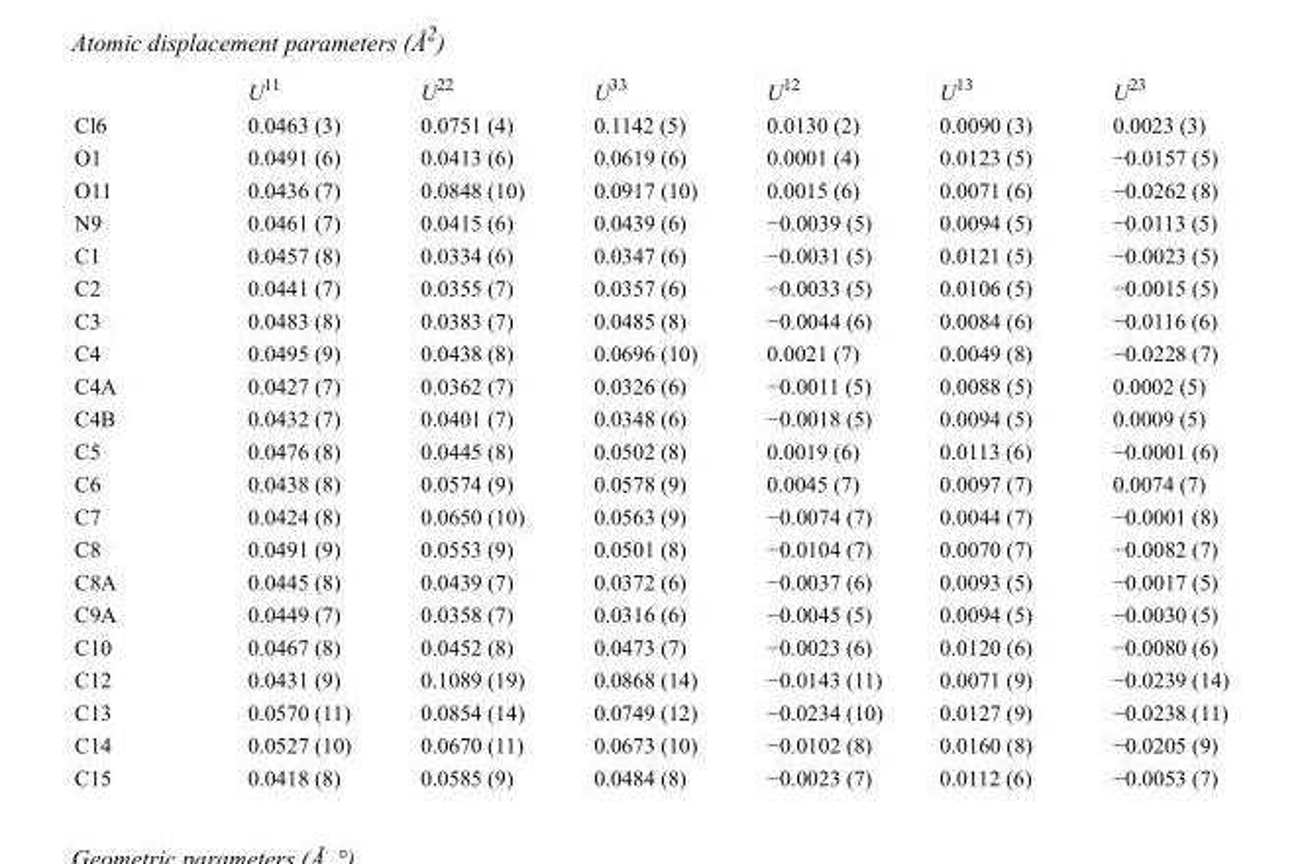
<table><thead><tr><td></td><td>U<sup>11</sup></td><td>U<sup>22</sup></td><td>U<sup>33</sup></td><td>U<sup>12</sup></td><td>U<sup>13</sup></td><td>U<sup>23</sup></td></tr></thead><tbody><tr><td>Cl6</td><td>0.0463 (3)</td><td>0.0751 (4)</td><td>0.1142 (5)</td><td>0.0130 (2)</td><td>0.0090 (3)</td><td>0.0023 (3)</td></tr><tr><td>O1</td><td>0.0491 (6)</td><td>0.0413 (6)</td><td>0.0619 (6)</td><td>0.0001 (4)</td><td>0.0123 (5)</td><td>−0.0157 (5)</td></tr><tr><td>O11</td><td>0.0436 (7)</td><td>0.0848 (10)</td><td>0.0917 (10)</td><td>0.0015 (6)</td><td>0.0071 (6)</td><td>−0.0262 (8)</td></tr><tr><td>N9</td><td>0.0461 (7)</td><td>0.0415 (6)</td><td>0.0439 (6)</td><td>−0.0039 (5)</td><td>0.0094 (5)</td><td>−0.0113 (5)</td></tr><tr><td>C1</td><td>0.0457 (8)</td><td>0.0334 (6)</td><td>0.0347 (6)</td><td>−0.0031 (5)</td><td>0.0121 (5)</td><td>−0.0023 (5)</td></tr><tr><td>C2</td><td>0.0441 (7)</td><td>0.0355 (7)</td><td>0.0357 (6)</td><td>−0.0033 (5)</td><td>0.0106 (5)</td><td>−0.0015 (5)</td></tr><tr><td>C3</td><td>0.0483 (8)</td><td>0.0383 (7)</td><td>0.0485 (8)</td><td>−0.0044 (6)</td><td>0.0084 (6)</td><td>−0.0116 (6)</td></tr><tr><td>C4</td><td>0.0495 (9)</td><td>0.0438 (8)</td><td>0.0696 (10)</td><td>0.0021 (7)</td><td>0.0049 (8)</td><td>−0.0228 (7)</td></tr><tr><td>C4A</td><td>0.0427 (7)</td><td>0.0362 (7)</td><td>0.0326 (6)</td><td>−0.0011 (5)</td><td>0.0088 (5)</td><td>0.0002 (5)</td></tr><tr><td>C4B</td><td>0.0432 (7)</td><td>0.0401 (7)</td><td>0.0348 (6)</td><td>−0.0018 (5)</td><td>0.0094 (5)</td><td>0.0009 (5)</td></tr><tr><td>C5</td><td>0.0476 (8)</td><td>0.0445 (8)</td><td>0.0502 (8)</td><td>0.0019 (6)</td><td>0.0113 (6)</td><td>−0.0001 (6)</td></tr><tr><td>C6</td><td>0.0438 (8)</td><td>0.0574 (9)</td><td>0.0578 (9)</td><td>0.0045 (7)</td><td>0.0097 (7)</td><td>0.0074 (7)</td></tr><tr><td>C7</td><td>0.0424 (8)</td><td>0.0650 (10)</td><td>0.0563 (9)</td><td>−0.0074 (7)</td><td>0.0044 (7)</td><td>−0.0001 (8)</td></tr><tr><td>C8</td><td>0.0491 (9)</td><td>0.0553 (9)</td><td>0.0501 (8)</td><td>−0.0104 (7)</td><td>0.0070 (7)</td><td>−0.0082 (7)</td></tr><tr><td>C8A</td><td>0.0445 (8)</td><td>0.0439 (7)</td><td>0.0372 (6)</td><td>−0.0037 (6)</td><td>0.0093 (5)</td><td>−0.0017 (5)</td></tr><tr><td>C9A</td><td>0.0449 (7)</td><td>0.0358 (7)</td><td>0.0316 (6)</td><td>−0.0045 (5)</td><td>0.0094 (5)</td><td>−0.0030 (5)</td></tr><tr><td>C10</td><td>0.0467 (8)</td><td>0.0452 (8)</td><td>0.0473 (7)</td><td>−0.0023 (6)</td><td>0.0120 (6)</td><td>−0.0080 (6)</td></tr><tr><td>C12</td><td>0.0431 (9)</td><td>0.1089 (19)</td><td>0.0868 (14)</td><td>−0.0143 (11)</td><td>0.0071 (9)</td><td>−0.0239 (14)</td></tr><tr><td>C13</td><td>0.0570 (11)</td><td>0.0854 (14)</td><td>0.0749 (12)</td><td>−0.0234 (10)</td><td>0.0127 (9)</td><td>−0.0238 (11)</td></tr><tr><td>C14</td><td>0.0527 (10)</td><td>0.0670 (11)</td><td>0.0673 (10)</td><td>−0.0102 (8)</td><td>0.0160 (8)</td><td>−0.0205 (9)</td></tr><tr><td>C15</td><td>0.0418 (8)</td><td>0.0585 (9)</td><td>0.0484 (8)</td><td>−0.0023 (7)</td><td>0.0112 (6)</td><td>−0.0053 (7)</td></tr></tbody></table>